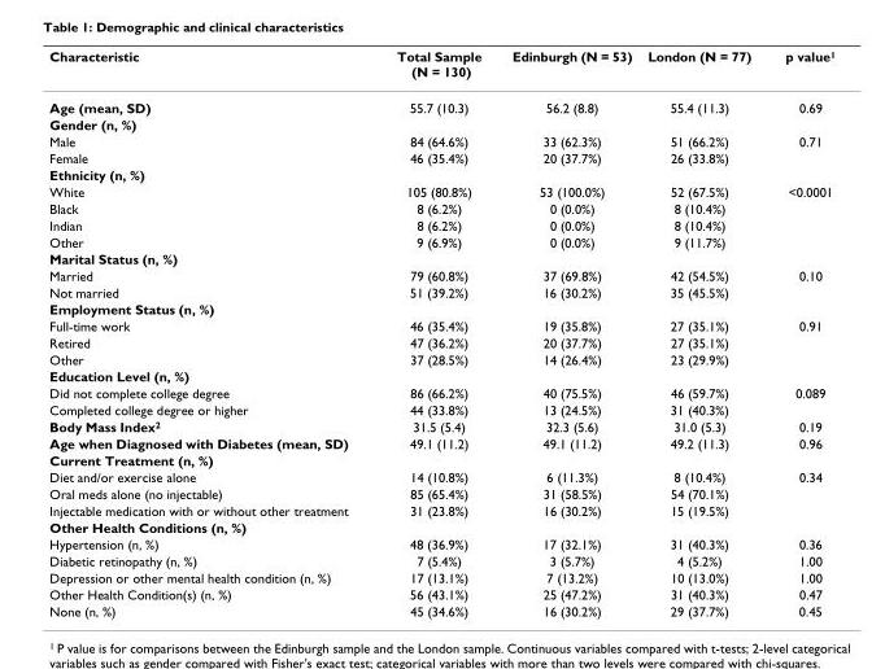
<table><thead><tr><td>Characteristic</td><td>Total Sample (N = 130)</td><td>Edinburgh (N = 53)</td><td>London (N = 77)</td><td>p value<sup>1</sup></td></tr></thead><tbody><tr><td>Age (mean, SD)</td><td>55.7 (10.3)</td><td>56.2 (8.8)</td><td>55.4 (11.3)</td><td>0.69</td></tr><tr><td colspan="5">Gender (n, %)</td></tr><tr><td>Male</td><td>84 (64.6%)</td><td>33 (62.3%)</td><td>51 (66.2%)</td><td>0.71</td></tr><tr><td>Female</td><td>46 (35.4%)</td><td>20 (37.7%)</td><td>26 (33.8%)</td><td></td></tr><tr><td colspan="5">Ethnicity (n, %)</td></tr><tr><td>White</td><td>105 (80.8%)</td><td>53 (100.0%)</td><td>52 (67.5%)</td><td>&lt;0.0001</td></tr><tr><td>Black</td><td>8 (6.2%)</td><td>0 (0.0%)</td><td>8 (10.4%)</td><td></td></tr><tr><td>Indian</td><td>8 (6.2%)</td><td>0 (0.0%)</td><td>8 (10.4%)</td><td></td></tr><tr><td>Other</td><td>9 (6.9%)</td><td>0 (0.0%)</td><td>9 (11.7%)</td><td></td></tr><tr><td colspan="5">Marital Status (n, %)</td></tr><tr><td>Married</td><td>79 (60.8%)</td><td>37 (69.8%)</td><td>42 (54.5%)</td><td>0.10</td></tr><tr><td>Not married</td><td>51 (39.2%)</td><td>16 (30.2%)</td><td>35 (45.5%)</td><td></td></tr><tr><td colspan="5">Employment Status (n, %)</td></tr><tr><td>Full-time work</td><td>46 (35.4%)</td><td>19 (35.8%)</td><td>27 (35.1%)</td><td>0.91</td></tr><tr><td>Retired</td><td>47 (36.2%)</td><td>20 (37.7%)</td><td>27 (35.1%)</td><td></td></tr><tr><td>Other</td><td>37 (28.5%)</td><td>14 (26.4%)</td><td>23 (29.9%)</td><td></td></tr><tr><td colspan="5">Education Level (n, %)</td></tr><tr><td>Did not complete college degree</td><td>86 (66.2%)</td><td>40 (75.5%)</td><td>46 (59.7%)</td><td>0.089</td></tr><tr><td>Completed college degree or higher</td><td>44 (33.8%)</td><td>13 (24.5%)</td><td>31 (40.3%)</td><td></td></tr><tr><td>Body Mass Index<sup>2</sup></td><td>31.5 (5.4)</td><td>32.3 (5.6)</td><td>31.0 (5.3)</td><td>0.19</td></tr><tr><td>Age when Diagnosed with Diabetes (mean, SD)</td><td>49.1 (11.2)</td><td>49.1 (11.2)</td><td>49.2 (11.3)</td><td>0.96</td></tr><tr><td colspan="5">Current Treatment (n, %)</td></tr><tr><td>Diet and/or exercise alone</td><td>14 (10.8%)</td><td>6 (11.3%)</td><td>8 (10.4%)</td><td>0.34</td></tr><tr><td>Oral meds alone (no injectable)</td><td>85 (65.4%)</td><td>31 (58.5%)</td><td>54 (70.1%)</td><td></td></tr><tr><td>Injectable medication with or without other treatment</td><td>31 (23.8%)</td><td>16 (30.2%)</td><td>15 (19.5%)</td><td></td></tr><tr><td colspan="5">Other Health Conditions (n, %)</td></tr><tr><td>Hypertension (n, %)</td><td>48 (36.9%)</td><td>17 (32.1%)</td><td>31 (40.3%)</td><td>0.36</td></tr><tr><td>Diabetic retinopathy (n, %)</td><td>7 (5.4%)</td><td>3 (5.7%)</td><td>4 (5.2%)</td><td>1.00</td></tr><tr><td>Depression or other mental health condition (n, %)</td><td>17 (13.1%)</td><td>7 (13.2%)</td><td>10 (13.0%)</td><td>1.00</td></tr><tr><td>Other Health Condition(s) (n, %)</td><td>56 (43.1%)</td><td>25 (47.2%)</td><td>31 (40.3%)</td><td>0.47</td></tr><tr><td>None (n, %)</td><td>45 (34.6%)</td><td>16 (30.2%)</td><td>29 (37.7%)</td><td>0.45</td></tr></tbody></table>